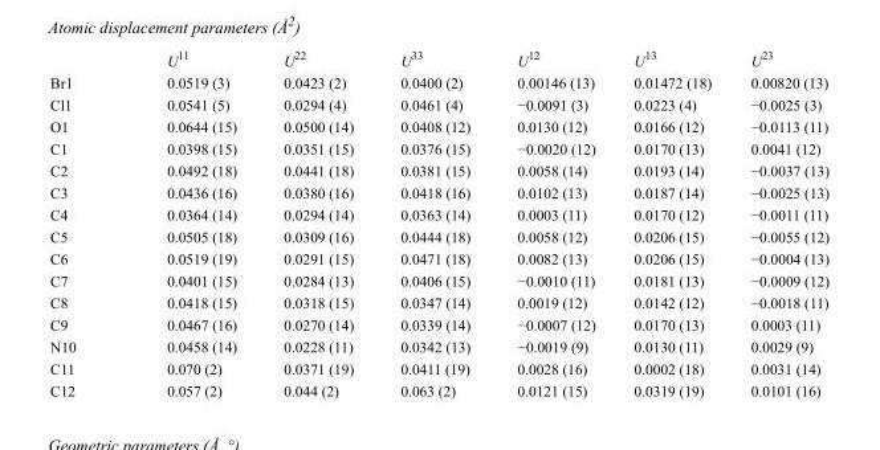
<table><thead><tr><td></td><td>U<sup>11</sup></td><td>U<sup>22</sup></td><td>U<sup>33</sup></td><td>U<sup>12</sup></td><td>U<sup>13</sup></td><td>U<sup>23</sup></td></tr></thead><tbody><tr><td>Br1</td><td>0.0519 (3)</td><td>0.0423 (2)</td><td>0.0400 (2)</td><td>0.00146 (13)</td><td>0.01472 (18)</td><td>0.00820 (13)</td></tr><tr><td>Cl1</td><td>0.0541 (5)</td><td>0.0294 (4)</td><td>0.0461 (4)</td><td>−0.0091 (3)</td><td>0.0223 (4)</td><td>−0.0025 (3)</td></tr><tr><td>O1</td><td>0.0644 (15)</td><td>0.0500 (14)</td><td>0.0408 (12)</td><td>0.0130 (12)</td><td>0.0166 (12)</td><td>−0.0113 (11)</td></tr><tr><td>C1</td><td>0.0398 (15)</td><td>0.0351 (15)</td><td>0.0376 (15)</td><td>−0.0020 (12)</td><td>0.0170 (13)</td><td>0.0041 (12)</td></tr><tr><td>C2</td><td>0.0492 (18)</td><td>0.0441 (18)</td><td>0.0381 (15)</td><td>0.0058 (14)</td><td>0.0193 (14)</td><td>−0.0037 (13)</td></tr><tr><td>C3</td><td>0.0436 (16)</td><td>0.0380 (16)</td><td>0.0418 (16)</td><td>0.0102 (13)</td><td>0.0187 (14)</td><td>−0.0025 (13)</td></tr><tr><td>C4</td><td>0.0364 (14)</td><td>0.0294 (14)</td><td>0.0363 (14)</td><td>0.0003 (11)</td><td>0.0170 (12)</td><td>−0.0011 (11)</td></tr><tr><td>C5</td><td>0.0505 (18)</td><td>0.0309 (16)</td><td>0.0444 (18)</td><td>0.0058 (12)</td><td>0.0206 (15)</td><td>−0.0055 (12)</td></tr><tr><td>C6</td><td>0.0519 (19)</td><td>0.0291 (15)</td><td>0.0471 (18)</td><td>0.0082 (13)</td><td>0.0206 (15)</td><td>−0.0004 (13)</td></tr><tr><td>C7</td><td>0.0401 (15)</td><td>0.0284 (13)</td><td>0.0406 (15)</td><td>−0.0010 (11)</td><td>0.0181 (13)</td><td>−0.0009 (12)</td></tr><tr><td>C8</td><td>0.0418 (15)</td><td>0.0318 (15)</td><td>0.0347 (14)</td><td>0.0019 (12)</td><td>0.0142 (12)</td><td>−0.0018 (11)</td></tr><tr><td>C9</td><td>0.0467 (16)</td><td>0.0270 (14)</td><td>0.0339 (14)</td><td>−0.0007 (12)</td><td>0.0170 (13)</td><td>0.0003 (11)</td></tr><tr><td>N10</td><td>0.0458 (14)</td><td>0.0228 (11)</td><td>0.0342 (13)</td><td>−0.0019 (9)</td><td>0.0130 (11)</td><td>0.0029 (9)</td></tr><tr><td>C11</td><td>0.070 (2)</td><td>0.0371 (19)</td><td>0.0411 (19)</td><td>0.0028 (16)</td><td>0.0002 (18)</td><td>0.0031 (14)</td></tr><tr><td>C12</td><td>0.057 (2)</td><td>0.044 (2)</td><td>0.063 (2)</td><td>0.0121 (15)</td><td>0.0319 (19)</td><td>0.0101 (16)</td></tr></tbody></table>